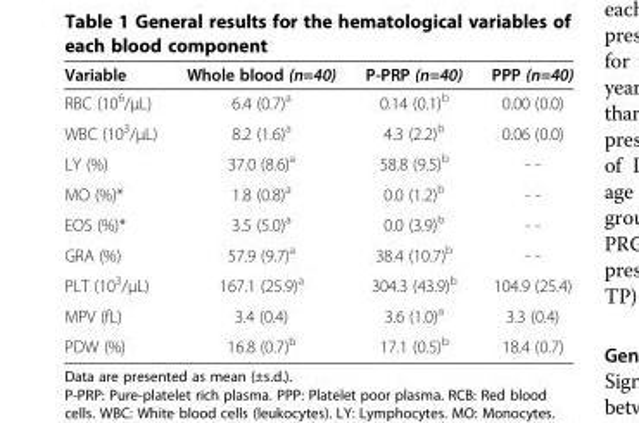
<table><thead><tr><td>Variable</td><td>Whole blood (n=40)</td><td>P-PRP (n=40)</td><td>PPP (n=40)</td></tr></thead><tbody><tr><td>RBC (10<sup>6</sup>/μL)</td><td>6.4 (0.7)<sup>a</sup></td><td>0.14 (0.1)<sup>b</sup></td><td>0.00 (0.0)</td></tr><tr><td>WBC (10<sup>3</sup>/μL)</td><td>8.2 (1.6)<sup>a</sup></td><td>4.3 (2.2)<sup>b</sup></td><td>0.06 (0.0)</td></tr><tr><td>LY (%)</td><td>37.0 (8.6)<sup>a</sup></td><td>58.8 (9.5)<sup>b</sup></td><td>- -</td></tr><tr><td>MO (%)*</td><td>1.8 (0.8)<sup>a</sup></td><td>0.0 (1.2)<sup>b</sup></td><td>- -</td></tr><tr><td>EOS (%)*</td><td>3.5 (5.0)<sup>a</sup></td><td>0.0 (3.9)<sup>b</sup></td><td>- -</td></tr><tr><td>GRA (%)</td><td>57.9 (9.7)<sup>a</sup></td><td>38.4 (10.7)<sup>b</sup></td><td>- -</td></tr><tr><td>PLT (10<sup>3</sup>/μL)</td><td>167.1 (25.9)<sup>a</sup></td><td>304.3 (43.9)<sup>b</sup></td><td>104.9 (25.4)</td></tr><tr><td>MPV (fL)</td><td>3.4 (0.4)</td><td>3.6 (1.0)<sup>a</sup></td><td>3.3 (0.4)</td></tr><tr><td>PDW (%)</td><td>16.8 (0.7)<sup>b</sup></td><td>17.1 (0.5)<sup>b</sup></td><td>18.4 (0.7)</td></tr></tbody></table>